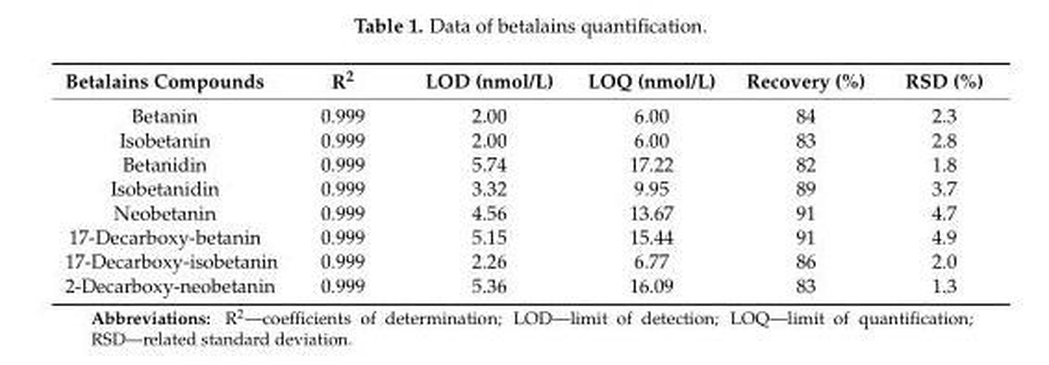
<table><thead><tr><td>Betalains Compounds</td><td>R<sup>2</sup></td><td>LOD (nmol/L)</td><td>LOQ (nmol/L)</td><td>Recovery (%)</td><td>RSD (%)</td></tr></thead><tbody><tr><td>Betanin</td><td>0.999</td><td>2.00</td><td>6.00</td><td>84</td><td>2.3</td></tr><tr><td>Isobetanin</td><td>0.999</td><td>2.00</td><td>6.00</td><td>83</td><td>2.8</td></tr><tr><td>Betanidin</td><td>0.999</td><td>5.74</td><td>17.22</td><td>82</td><td>1.8</td></tr><tr><td>Isobetanidin</td><td>0.999</td><td>3.32</td><td>9.95</td><td>89</td><td>3.7</td></tr><tr><td>Neobetanin</td><td>0.999</td><td>4.56</td><td>13.67</td><td>91</td><td>4.7</td></tr><tr><td>17-Decarboxy-betanin</td><td>0.999</td><td>5.15</td><td>15.44</td><td>91</td><td>4.9</td></tr><tr><td>17-Decarboxy-isobetanin</td><td>0.999</td><td>2.26</td><td>6.77</td><td>86</td><td>2.0</td></tr><tr><td>2-Decarboxy-neobetanin</td><td>0.999</td><td>5.36</td><td>16.09</td><td>83</td><td>1.3</td></tr></tbody></table>